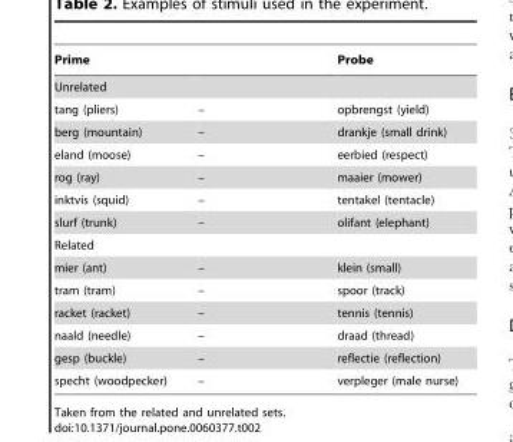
<table><thead><tr><td>Prime</td><td></td><td>Probe</td></tr></thead><tbody><tr><td colspan="3">Unrelated</td></tr><tr><td>tang (pliers)</td><td>–</td><td>opbrengst (yield)</td></tr><tr><td>berg (mountain)</td><td>–</td><td>drankje (small drink)</td></tr><tr><td>eland (moose)</td><td>–</td><td>eerbied (respect)</td></tr><tr><td>rog (ray)</td><td>–</td><td>maaier (mower)</td></tr><tr><td>inktvis (squid)</td><td>–</td><td>tentakel (tentacle)</td></tr><tr><td>slurf (trunk)</td><td>–</td><td>olifant (elephant)</td></tr><tr><td colspan="3">Related</td></tr><tr><td>mier (ant)</td><td>–</td><td>klein (small)</td></tr><tr><td>tram (tram)</td><td>–</td><td>spoor (track)</td></tr><tr><td>racket (racket)</td><td>–</td><td>tennis (tennis)</td></tr><tr><td>naald (needle)</td><td>–</td><td>draad (thread)</td></tr><tr><td>gesp (buckle)</td><td>–</td><td>reflectie (reflection)</td></tr><tr><td>specht (woodpecker)</td><td>–</td><td>verpleger (male nurse)</td></tr></tbody></table>